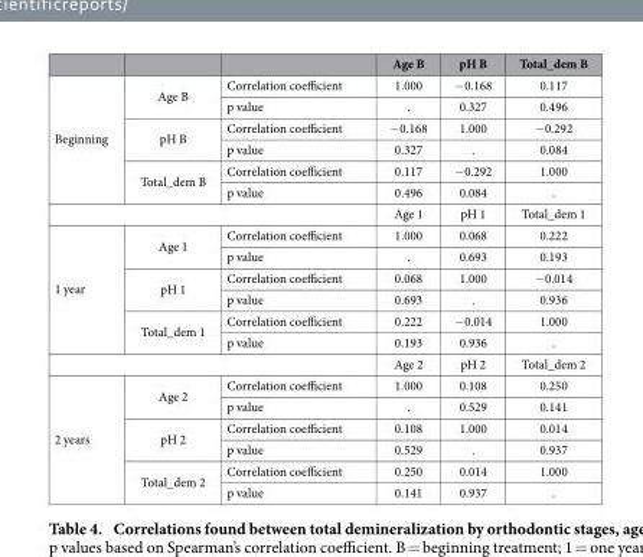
<table><thead><tr><td></td><td></td><td></td><td>Age B</td><td>pH B</td><td>Total_dem B</td></tr></thead><tbody><tr><td rowspan="6">Beginning</td><td rowspan="2">Age B</td><td>Correlation coefficient</td><td>1.000</td><td>− 0.168</td><td>0.117</td></tr><tr><td>p value</td><td>.</td><td>0.327</td><td>0.496</td></tr><tr><td rowspan="2">pH B</td><td>Correlation coefficient</td><td>− 0.168</td><td>1.000</td><td>− 0.292</td></tr><tr><td>p value</td><td>0.327</td><td>.</td><td>0.084</td></tr><tr><td rowspan="2">Total_dem B</td><td>Correlation coefficient</td><td>0.117</td><td>− 0.292</td><td>1.000</td></tr><tr><td>p value</td><td>0.496</td><td>0.084</td><td>.</td></tr><tr><td colspan="3"></td><td>Age 1</td><td>pH 1</td><td>Total_dem 1</td></tr><tr><td rowspan="6">1 year</td><td rowspan="2">Age 1</td><td>Correlation coefficient</td><td>1.000</td><td>0.068</td><td>0.222</td></tr><tr><td>p value</td><td>.</td><td>0.693</td><td>0.193</td></tr><tr><td rowspan="2">pH 1</td><td>Correlation coefficient</td><td>0.068</td><td>1.000</td><td>− 0.014</td></tr><tr><td>p value</td><td>0.693</td><td>.</td><td>0.936</td></tr><tr><td rowspan="2">Total_dem 1</td><td>Correlation coefficient</td><td>0.222</td><td>− 0.014</td><td>1.000</td></tr><tr><td>p value</td><td>0.193</td><td>0.936</td><td>.</td></tr><tr><td colspan="3"></td><td>Age 2</td><td>pH 2</td><td>Total_dem 2</td></tr><tr><td rowspan="6">2 years</td><td rowspan="2">Age 2</td><td>Correlation coefficient</td><td>1.000</td><td>0.108</td><td>0.250</td></tr><tr><td>p value</td><td>.</td><td>0.529</td><td>0.141</td></tr><tr><td rowspan="2">pH 2</td><td>Correlation coefficient</td><td>0.108</td><td>1.000</td><td>0.014</td></tr><tr><td>p value</td><td>0.529</td><td>.</td><td>0.937</td></tr><tr><td rowspan="2">Total_dem 2</td><td>Correlation coefficient</td><td>0.250</td><td>0.014</td><td>1.000</td></tr><tr><td>p value</td><td>0.141</td><td>0.937</td><td>.</td></tr></tbody></table>